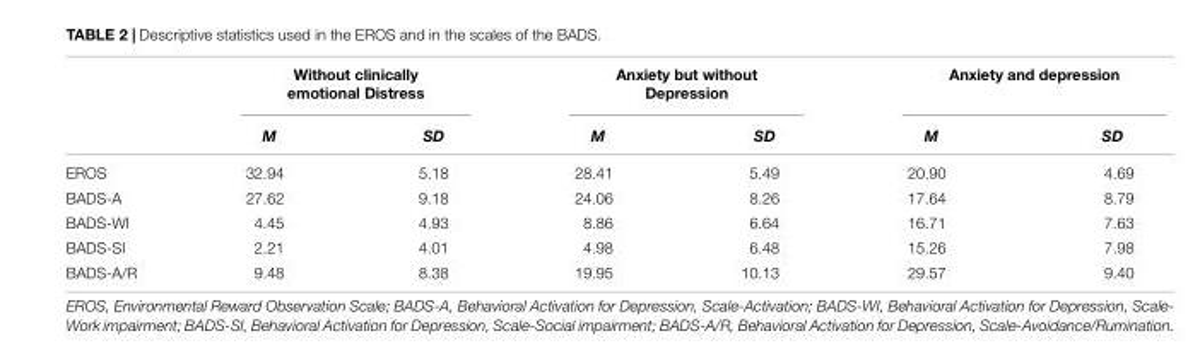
<table><thead><tr><td rowspan="3"></td><td rowspan="2" colspan="2">Without clinically emotional Distress</td><td rowspan="2" colspan="2">Anxiety but without Depression</td><td colspan="2">Anxiety and depression</td></tr><tr><td rowspan="2">M</td><td rowspan="2">SD</td></tr><tr><td>M</td><td>SD</td><td>M</td><td>SD</td></tr></thead><tbody><tr><td>EROS</td><td>32.94</td><td>5.18</td><td>28.41</td><td>5.49</td><td>20.90</td><td>4.69</td></tr><tr><td>BADS-A</td><td>27.62</td><td>9.18</td><td>24.06</td><td>8.26</td><td>17.64</td><td>8.79</td></tr><tr><td>BADS-WI</td><td>4.45</td><td>4.93</td><td>8.86</td><td>6.64</td><td>16.71</td><td>7.63</td></tr><tr><td>BADS-SI</td><td>2.21</td><td>4.01</td><td>4.98</td><td>6.48</td><td>15.26</td><td>7.98</td></tr><tr><td>BADS-A/R</td><td>9.48</td><td>8.38</td><td>19.95</td><td>10.13</td><td>29.57</td><td>9.40</td></tr></tbody></table>